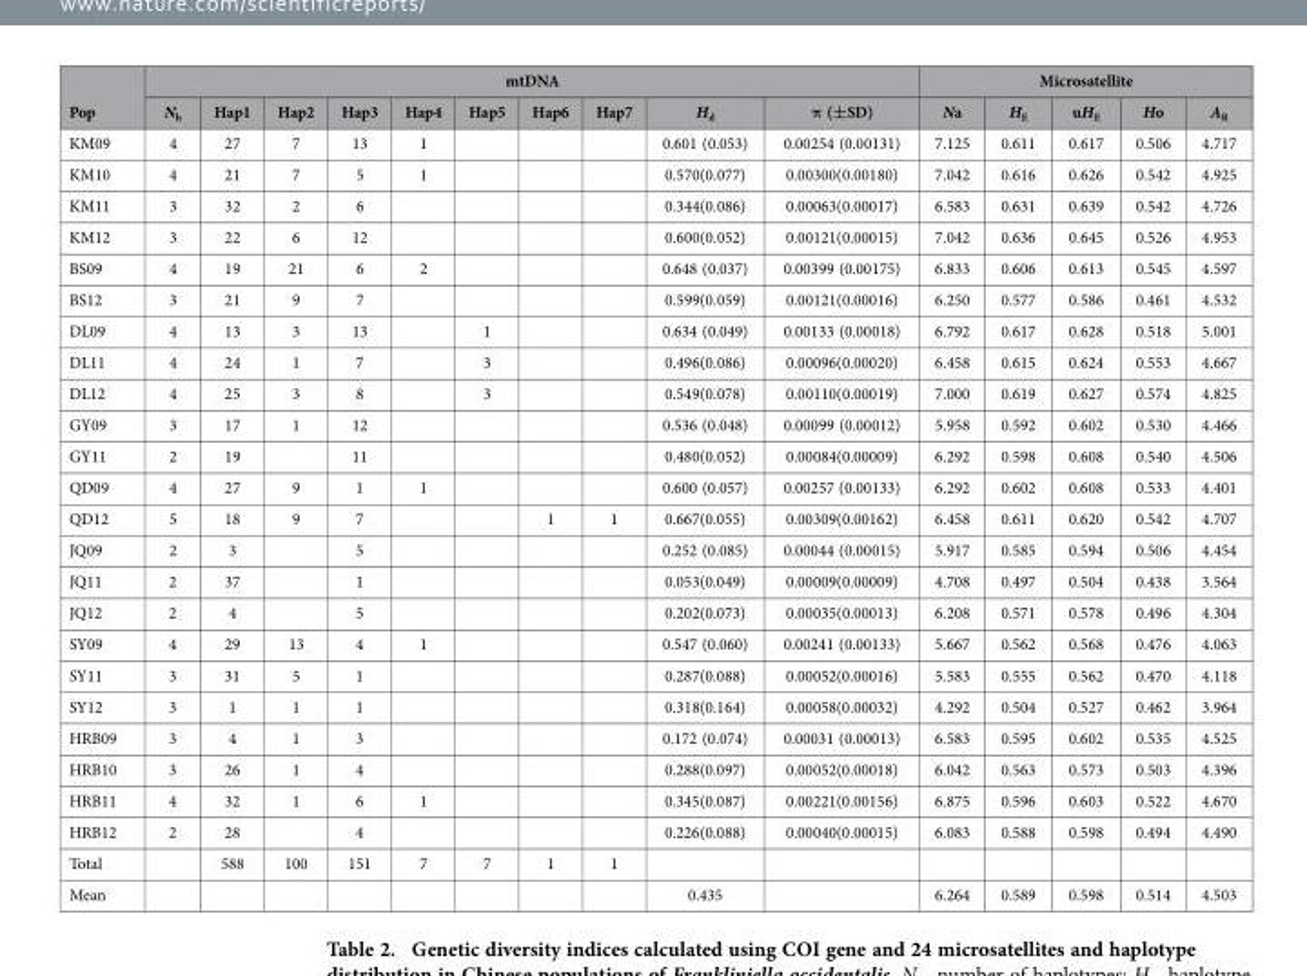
<table><thead><tr><td rowspan="2">Pop</td><td colspan="10">mtDNA</td><td colspan="5">Microsatellite</td></tr><tr><td>N<sub>h</sub></td><td>Hap1</td><td>Hap2</td><td>Hap3</td><td>Hap4</td><td>Hap5</td><td>Hap6</td><td>Hap7</td><td>H<sub>d</sub></td><td>π (±SD)</td><td>Na</td><td>H<sub>E</sub></td><td>uH<sub>E</sub></td><td>Ho</td><td>A<sub>R</sub></td></tr></thead><tbody><tr><td>KM09</td><td>4</td><td>27</td><td>7</td><td>13</td><td>1</td><td></td><td></td><td></td><td>0.601 (0.053)</td><td>0.00254 (0.00131)</td><td>7.125</td><td>0.611</td><td>0.617</td><td>0.506</td><td>4.717</td></tr><tr><td>KM10</td><td>4</td><td>21</td><td>7</td><td>5</td><td>1</td><td></td><td></td><td></td><td>0.570(0.077)</td><td>0.00300(0.00180)</td><td>7.042</td><td>0.616</td><td>0.626</td><td>0.542</td><td>4.925</td></tr><tr><td>KM11</td><td>3</td><td>32</td><td>2</td><td>6</td><td></td><td></td><td></td><td></td><td>0.344(0.086)</td><td>0.00063(0.00017)</td><td>6.583</td><td>0.631</td><td>0.639</td><td>0.542</td><td>4.726</td></tr><tr><td>KM12</td><td>3</td><td>22</td><td>6</td><td>12</td><td></td><td></td><td></td><td></td><td>0.600(0.052)</td><td>0.00121(0.00015)</td><td>7.042</td><td>0.636</td><td>0.645</td><td>0.526</td><td>4.953</td></tr><tr><td>BS09</td><td>4</td><td>19</td><td>21</td><td>6</td><td>2</td><td></td><td></td><td></td><td>0.648 (0.037)</td><td>0.00399 (0.00175)</td><td>6.833</td><td>0.606</td><td>0.613</td><td>0.545</td><td>4.597</td></tr><tr><td>BS12</td><td>3</td><td>21</td><td>9</td><td>7</td><td></td><td></td><td></td><td></td><td>0.599(0.059)</td><td>0.00121(0.00016)</td><td>6.250</td><td>0.577</td><td>0.586</td><td>0.461</td><td>4.532</td></tr><tr><td>DL09</td><td>4</td><td>13</td><td>3</td><td>13</td><td></td><td>1</td><td></td><td></td><td>0.634 (0.049)</td><td>0.00133 (0.00018)</td><td>6.792</td><td>0.617</td><td>0.628</td><td>0.518</td><td>5.001</td></tr><tr><td>DL11</td><td>4</td><td>24</td><td>1</td><td>7</td><td></td><td>3</td><td></td><td></td><td>0.496(0.086)</td><td>0.00096(0.00020)</td><td>6.458</td><td>0.615</td><td>0.624</td><td>0.553</td><td>4.667</td></tr><tr><td>DL12</td><td>4</td><td>25</td><td>3</td><td>8</td><td></td><td>3</td><td></td><td></td><td>0.549(0.078)</td><td>0.00110(0.00019)</td><td>7.000</td><td>0.619</td><td>0.627</td><td>0.574</td><td>4.825</td></tr><tr><td>GY09</td><td>3</td><td>17</td><td>1</td><td>12</td><td></td><td></td><td></td><td></td><td>0.536 (0.048)</td><td>0.00099 (0.00012)</td><td>5.958</td><td>0.592</td><td>0.602</td><td>0.530</td><td>4.466</td></tr><tr><td>GY11</td><td>2</td><td>19</td><td></td><td>11</td><td></td><td></td><td></td><td></td><td>0.480(0.052)</td><td>0.00084(0.00009)</td><td>6.292</td><td>0.598</td><td>0.608</td><td>0.540</td><td>4.506</td></tr><tr><td>QD09</td><td>4</td><td>27</td><td>9</td><td>1</td><td>1</td><td></td><td></td><td></td><td>0.600 (0.057)</td><td>0.00257 (0.00133)</td><td>6.292</td><td>0.602</td><td>0.608</td><td>0.533</td><td>4.401</td></tr><tr><td>QD12</td><td>5</td><td>18</td><td>9</td><td>7</td><td></td><td></td><td>1</td><td>1</td><td>0.667(0.055)</td><td>0.00309(0.00162)</td><td>6.458</td><td>0.611</td><td>0.620</td><td>0.542</td><td>4.707</td></tr><tr><td>JQ09</td><td>2</td><td>3</td><td></td><td>5</td><td></td><td></td><td></td><td></td><td>0.252 (0.085)</td><td>0.00044 (0.00015)</td><td>5.917</td><td>0.585</td><td>0.594</td><td>0.506</td><td>4.454</td></tr><tr><td>JQ11</td><td>2</td><td>37</td><td></td><td>1</td><td></td><td></td><td></td><td></td><td>0.053(0.049)</td><td>0.00009(0.00009)</td><td>4.708</td><td>0.497</td><td>0.504</td><td>0.438</td><td>3.564</td></tr><tr><td>JQ12</td><td>2</td><td>4</td><td></td><td>5</td><td></td><td></td><td></td><td></td><td>0.202(0.073)</td><td>0.00035(0.00013)</td><td>6.208</td><td>0.571</td><td>0.578</td><td>0.496</td><td>4.304</td></tr><tr><td>SY09</td><td>4</td><td>29</td><td>13</td><td>4</td><td>1</td><td></td><td></td><td></td><td>0.547 (0.060)</td><td>0.00241 (0.00133)</td><td>5.667</td><td>0.562</td><td>0.568</td><td>0.476</td><td>4.063</td></tr><tr><td>SY11</td><td>3</td><td>31</td><td>5</td><td>1</td><td></td><td></td><td></td><td></td><td>0.287(0.088)</td><td>0.00052(0.00016)</td><td>5.583</td><td>0.555</td><td>0.562</td><td>0.470</td><td>4.118</td></tr><tr><td>SY12</td><td>3</td><td>1</td><td>1</td><td>1</td><td></td><td></td><td></td><td></td><td>0.318(0.164)</td><td>0.00058(0.00032)</td><td>4.292</td><td>0.504</td><td>0.527</td><td>0.462</td><td>3.964</td></tr><tr><td>HRB09</td><td>3</td><td>4</td><td>1</td><td>3</td><td></td><td></td><td></td><td></td><td>0.172 (0.074)</td><td>0.00031 (0.00013)</td><td>6.583</td><td>0.595</td><td>0.602</td><td>0.535</td><td>4.525</td></tr><tr><td>HRB10</td><td>3</td><td>26</td><td>1</td><td>4</td><td></td><td></td><td></td><td></td><td>0.288(0.097)</td><td>0.00052(0.00018)</td><td>6.042</td><td>0.563</td><td>0.573</td><td>0.503</td><td>4.396</td></tr><tr><td>HRB11</td><td>4</td><td>32</td><td>1</td><td>6</td><td>1</td><td></td><td></td><td></td><td>0.345(0.087)</td><td>0.00221(0.00156)</td><td>6.875</td><td>0.596</td><td>0.603</td><td>0.522</td><td>4.670</td></tr><tr><td>HRB12</td><td>2</td><td>28</td><td></td><td>4</td><td></td><td></td><td></td><td></td><td>0.226(0.088)</td><td>0.00040(0.00015)</td><td>6.083</td><td>0.588</td><td>0.598</td><td>0.494</td><td>4.490</td></tr><tr><td>Total</td><td></td><td>588</td><td>100</td><td>151</td><td>7</td><td>7</td><td>1</td><td>1</td><td></td><td></td><td></td><td></td><td></td><td></td><td></td></tr><tr><td>Mean</td><td></td><td></td><td></td><td></td><td></td><td></td><td></td><td></td><td>0.435</td><td></td><td>6.264</td><td>0.589</td><td>0.598</td><td>0.514</td><td>4.503</td></tr></tbody></table>